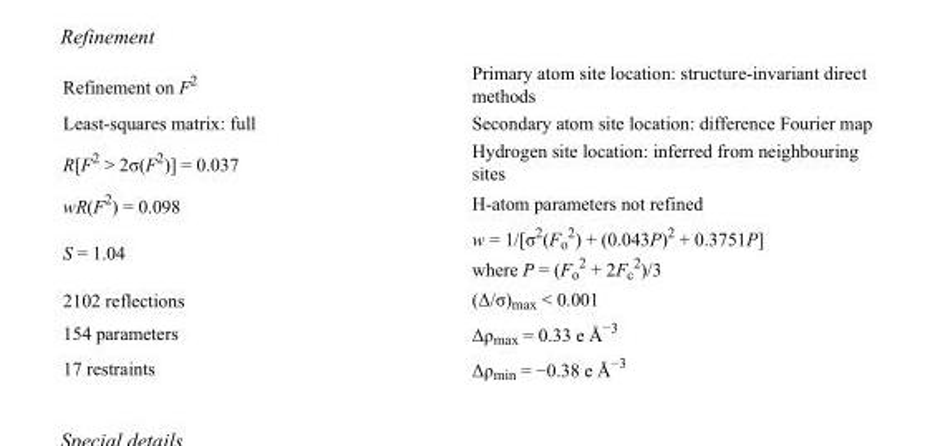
<table><tbody><tr><td>Refinement on F<sup>2</sup></td><td>Primary atom site location: structure-invariant direct methods</td></tr><tr><td>Least-squares matrix: full</td><td>Secondary atom site location: difference Fourier map</td></tr><tr><td>R[F<sup>2</sup> &gt; 2σ(F<sup>2</sup>)] = 0.037</td><td>Hydrogen site location: inferred from neighbouring sites</td></tr><tr><td>wR(F<sup>2</sup>) = 0.098</td><td>H-atom parameters not refined</td></tr><tr><td>S = 1.04</td><td>w = 1/[σ<sup>2</sup>(F<sub>o</sub> <sup>2</sup>) + (0.043P)<sup>2</sup> + 0.3751P] where P = (F<sub>o</sub> <sup>2</sup> + 2F<sub>c</sub> <sup>2</sup>)/3</td></tr><tr><td>2102 reflections</td><td>(Δ/σ)<sub>max</sub> &lt; 0.001</td></tr><tr><td>154 parameters</td><td>Δρ<sub>max</sub> = 0.33 e Å<sup>−3</sup></td></tr><tr><td>17 restraints</td><td>Δρ<sub>min</sub> = −0.38 e Å<sup>−3</sup></td></tr></tbody></table>